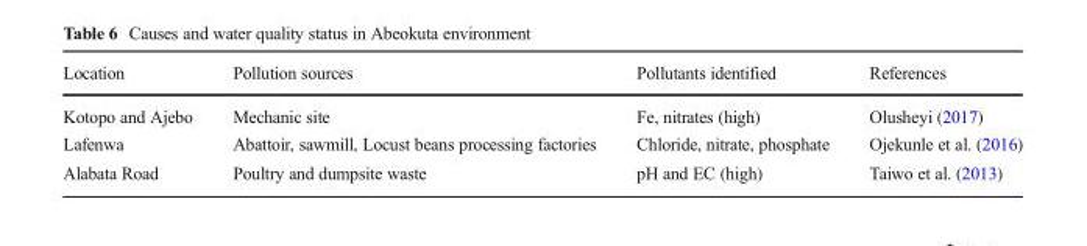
<table><thead><tr><td>Location</td><td>Pollution sources</td><td>Pollutants identified</td><td>References</td></tr></thead><tbody><tr><td>Kotopo and Ajebo</td><td>Mechanic site</td><td>Fe, nitrates (high)</td><td>Olusheyi (2017)</td></tr><tr><td>Lafenwa</td><td>Abattoir, sawmill, Locust beans processing factories</td><td>Chloride, nitrate, phosphate</td><td>Ojekunle et al. (2016)</td></tr><tr><td>Alabata Road</td><td>Poultry and dumpsite waste</td><td>pH and EC (high)</td><td>Taiwo et al. (2013)</td></tr></tbody></table>